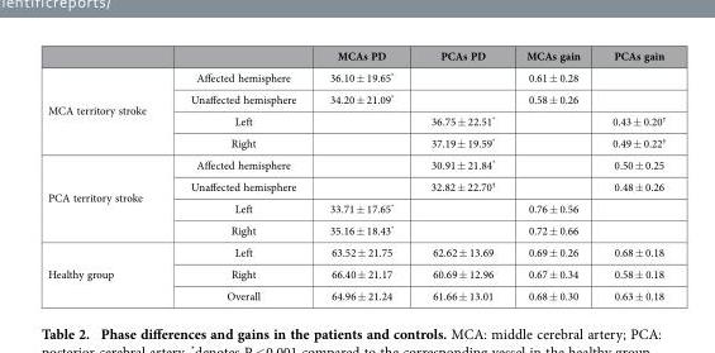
<table><thead><tr><td></td><td></td><td>MCAs PD</td><td>PCAs PD</td><td>MCAs gain</td><td>PCAs gain</td></tr></thead><tbody><tr><td rowspan="4">MCA territory stroke</td><td>Affected hemisphere</td><td>36.10 ± 19.65*</td><td></td><td>0.61 ± 0.28</td><td></td></tr><tr><td>Unaffected hemisphere</td><td>34.20 ± 21.09*</td><td></td><td>0.58 ± 0.26</td><td></td></tr><tr><td>Left</td><td></td><td>36.75 ± 22.51*</td><td></td><td>0.43 ± 0.20†</td></tr><tr><td>Right</td><td></td><td>37.19 ± 19.59*</td><td></td><td>0.49 ± 0.22†</td></tr><tr><td rowspan="4">PCA territory stroke</td><td>Affected hemisphere</td><td></td><td>30.91 ± 21.84*</td><td></td><td>0.50 ± 0.25</td></tr><tr><td>Unaffected hemisphere</td><td></td><td>32.82 ± 22.70†</td><td></td><td>0.48 ± 0.26</td></tr><tr><td>Left</td><td>33.71 ± 17.65*</td><td></td><td>0.76 ± 0.56</td><td></td></tr><tr><td>Right</td><td>35.16 ± 18.43*</td><td></td><td>0.72 ± 0.66</td><td></td></tr><tr><td rowspan="3">Healthy group</td><td>Left</td><td>63.52 ± 21.75</td><td>62.62 ± 13.69</td><td>0.69 ± 0.26</td><td>0.68 ± 0.18</td></tr><tr><td>Right</td><td>66.40 ± 21.17</td><td>60.69 ± 12.96</td><td>0.67 ± 0.34</td><td>0.58 ± 0.18</td></tr><tr><td>Overall</td><td>64.96 ± 21.24</td><td>61.66 ± 13.01</td><td>0.68 ± 0.30</td><td>0.63 ± 0.18</td></tr></tbody></table>